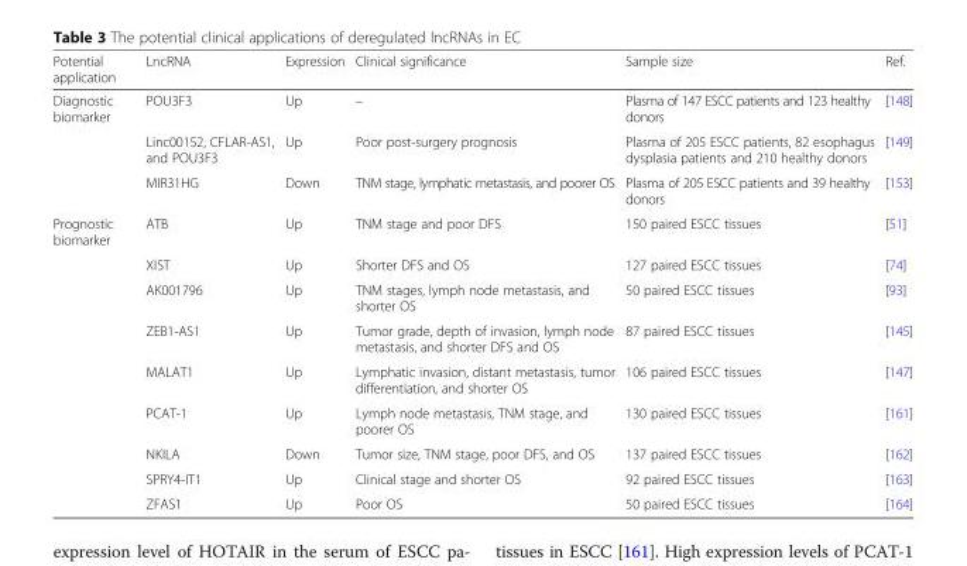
<table><thead><tr><td>Potential application</td><td>LncRNA</td><td>Expression</td><td>Clinical significance</td><td>Sample size</td><td>Ref.</td></tr></thead><tbody><tr><td rowspan="3">Diagnostic biomarker</td><td>POU3F3</td><td>Up</td><td>–</td><td>Plasma of 147 ESCC patients and 123 healthy donors</td><td>[148]</td></tr><tr><td>Linc00152, CFLAR-AS1, and POU3F3</td><td>Up</td><td>Poor post-surgery prognosis</td><td>Plasma of 205 ESCC patients, 82 esophagus dysplasia patients and 210 healthy donors</td><td>[149]</td></tr><tr><td>MIR31HG</td><td>Down</td><td>TNM stage, lymphatic metastasis, and poorer OS</td><td>Plasma of 205 ESCC patients and 39 healthy donors</td><td>[153]</td></tr><tr><td rowspan="9">Prognostic biomarker</td><td>ATB</td><td>Up</td><td>TNM stage and poor DFS</td><td>150 paired ESCC tissues</td><td>[51]</td></tr><tr><td>XIST</td><td>Up</td><td>Shorter DFS and OS</td><td>127 paired ESCC tissues</td><td>[74]</td></tr><tr><td>AK001796</td><td>Up</td><td>TNM stages, lymph node metastasis, and shorter OS</td><td>50 paired ESCC tissues</td><td>[93]</td></tr><tr><td>ZEB1-AS1</td><td>Up</td><td>Tumor grade, depth of invasion, lymph node metastasis, and shorter DFS and OS</td><td>87 paired ESCC tissues</td><td>[145]</td></tr><tr><td>MALAT1</td><td>Up</td><td>Lymphatic invasion, distant metastasis, tumor differentiation, and shorter OS</td><td>106 paired ESCC tissues</td><td>[147]</td></tr><tr><td>PCAT-1</td><td>Up</td><td>Lymph node metastasis, TNM stage, and poorer OS</td><td>130 paired ESCC tissues</td><td>[161]</td></tr><tr><td>NKILA</td><td>Down</td><td>Tumor size, TNM stage, poor DFS, and OS</td><td>137 paired ESCC tissues</td><td>[162]</td></tr><tr><td>SPRY4-IT1</td><td>Up</td><td>Clinical stage and shorter OS</td><td>92 paired ESCC tissues</td><td>[163]</td></tr><tr><td>ZFAS1</td><td>Up</td><td>Poor OS</td><td>50 paired ESCC tissues</td><td>[164]</td></tr></tbody></table>